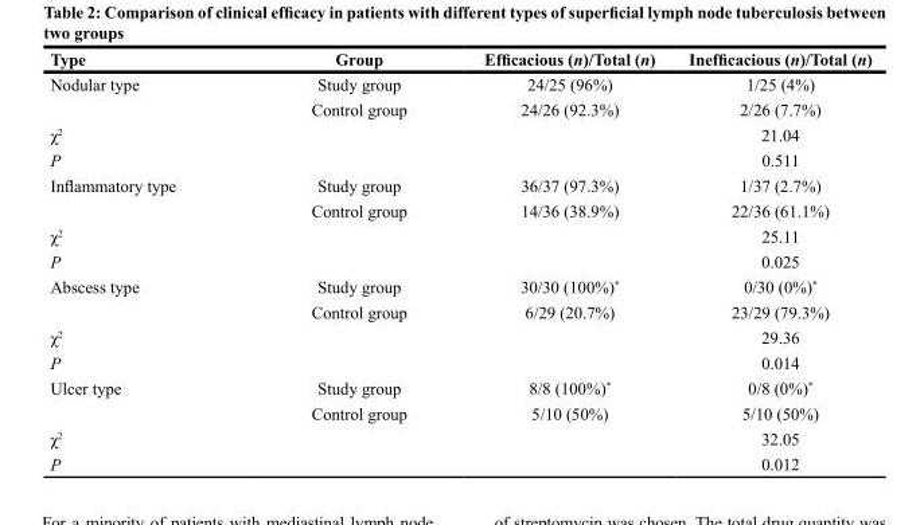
<table><thead><tr><td>Type</td><td>Group</td><td>Efficacious (n)/Total (n)</td><td>Inefficacious (n)/Total (n)</td></tr></thead><tbody><tr><td rowspan="2">Nodular type</td><td>Study group</td><td>24/25 (96%)</td><td>1/25 (4%)</td></tr><tr><td>Control group</td><td>24/26 (92.3%)</td><td>2/26 (7.7%)</td></tr><tr><td>χ<sup>2</sup></td><td></td><td></td><td>21.04</td></tr><tr><td>P</td><td></td><td></td><td>0.511</td></tr><tr><td rowspan="2">Inflammatory type</td><td>Study group</td><td>36/37 (97.3%)</td><td>1/37 (2.7%)</td></tr><tr><td>Control group</td><td>14/36 (38.9%)</td><td>22/36 (61.1%)</td></tr><tr><td>χ<sup>2</sup></td><td></td><td></td><td>25.11</td></tr><tr><td>P</td><td></td><td></td><td>0.025</td></tr><tr><td rowspan="2">Abscess type</td><td>Study group</td><td>30/30 (100%)*</td><td>0/30 (0%)*</td></tr><tr><td>Control group</td><td>6/29 (20.7%)</td><td>23/29 (79.3%)</td></tr><tr><td>χ<sup>2</sup></td><td></td><td></td><td>29.36</td></tr><tr><td>P</td><td></td><td></td><td>0.014</td></tr><tr><td rowspan="2">Ulcer type</td><td>Study group</td><td>8/8 (100%)*</td><td>0/8 (0%)*</td></tr><tr><td>Control group</td><td>5/10 (50%)</td><td>5/10 (50%)</td></tr><tr><td>χ<sup>2</sup></td><td></td><td></td><td>32.05</td></tr><tr><td>P</td><td></td><td></td><td>0.012</td></tr></tbody></table>